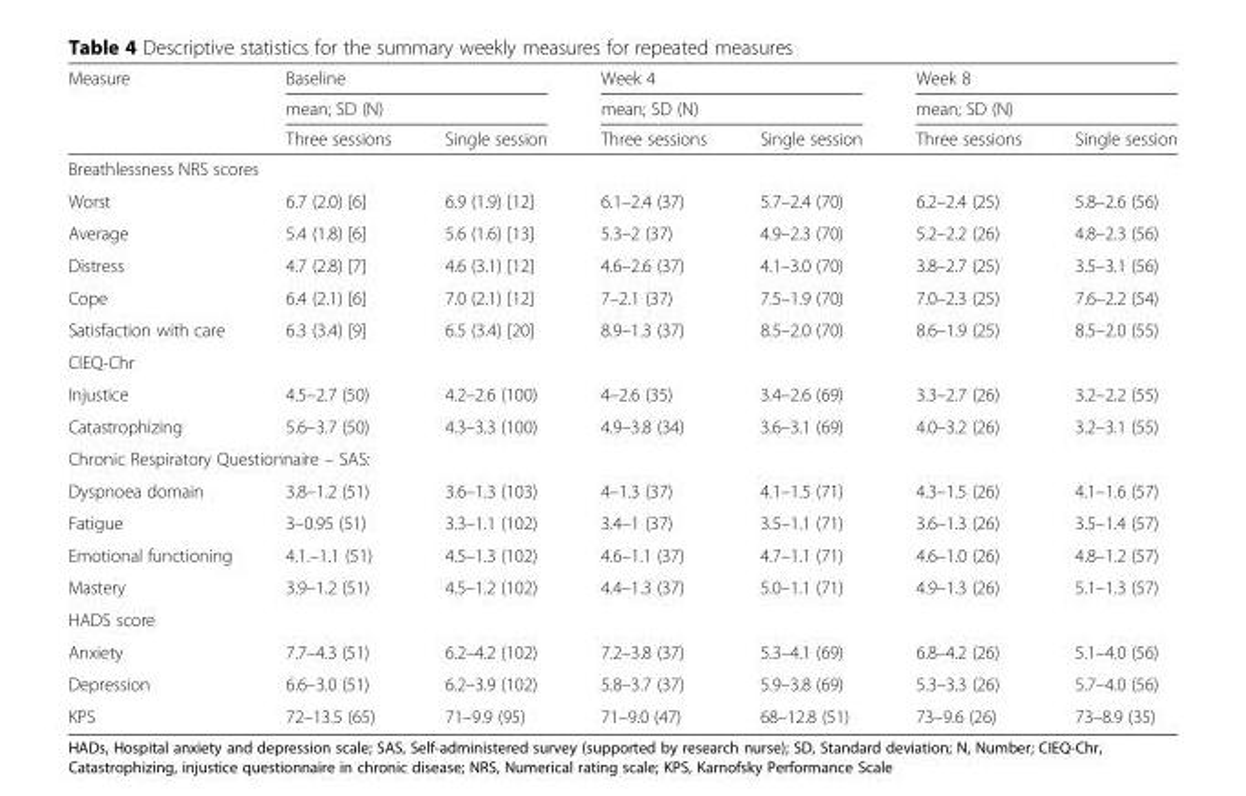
<table><thead><tr><td rowspan="3">Measure</td><td rowspan="2" colspan="2">Baseline mean; SD (N)</td><td rowspan="2" colspan="2">Week 4 mean; SD (N)</td><td rowspan="2" colspan="2">Week 8 mean; SD (N)</td></tr><tr></tr><tr><td>Three sessions</td><td>Single session</td><td>Three sessions</td><td>Single session</td><td>Three sessions</td><td>Single session</td></tr></thead><tbody><tr><td colspan="7">Breathlessness NRS scores</td></tr><tr><td>Worst</td><td>6.7 (2.0) [6]</td><td>6.9 (1.9) [12]</td><td>6.1–2.4 (37)</td><td>5.7–2.4 (70)</td><td>6.2–2.4 (25)</td><td>5.8–2.6 (56)</td></tr><tr><td>Average</td><td>5.4 (1.8) [6]</td><td>5.6 (1.6) [13]</td><td>5.3–2 (37)</td><td>4.9–2.3 (70)</td><td>5.2–2.2 (26)</td><td>4.8–2.3 (56)</td></tr><tr><td>Distress</td><td>4.7 (2.8) [7]</td><td>4.6 (3.1) [12]</td><td>4.6–2.6 (37)</td><td>4.1–3.0 (70)</td><td>3.8–2.7 (25)</td><td>3.5–3.1 (56)</td></tr><tr><td>Cope</td><td>6.4 (2.1) [6]</td><td>7.0 (2.1) [12]</td><td>7–2.1 (37)</td><td>7.5–1.9 (70)</td><td>7.0–2.3 (25)</td><td>7.6–2.2 (54)</td></tr><tr><td>Satisfaction with care</td><td>6.3 (3.4) [9]</td><td>6.5 (3.4) [20]</td><td>8.9–1.3 (37)</td><td>8.5–2.0 (70)</td><td>8.6–1.9 (25)</td><td>8.5–2.0 (55)</td></tr><tr><td colspan="7">CIEQ-Chr</td></tr><tr><td>Injustice</td><td>4.5–2.7 (50)</td><td>4.2–2.6 (100)</td><td>4–2.6 (35)</td><td>3.4–2.6 (69)</td><td>3.3–2.7 (26)</td><td>3.2–2.2 (55)</td></tr><tr><td>Catastrophizing</td><td>5.6–3.7 (50)</td><td>4.3–3.3 (100)</td><td>4.9–3.8 (34)</td><td>3.6–3.1 (69)</td><td>4.0–3.2 (26)</td><td>3.2–3.1 (55)</td></tr><tr><td colspan="7">Chronic Respiratory Questionnaire – SAS:</td></tr><tr><td>Dyspnoea domain</td><td>3.8–1.2 (51)</td><td>3.6–1.3 (103)</td><td>4–1.3 (37)</td><td>4.1–1.5 (71)</td><td>4.3–1.5 (26)</td><td>4.1–1.6 (57)</td></tr><tr><td>Fatigue</td><td>3–0.95 (51)</td><td>3.3–1.1 (102)</td><td>3.4–1 (37)</td><td>3.5–1.1 (71)</td><td>3.6–1.3 (26)</td><td>3.5–1.4 (57)</td></tr><tr><td>Emotional functioning</td><td>4.1.–1.1 (51)</td><td>4.5–1.3 (102)</td><td>4.6–1.1 (37)</td><td>4.7–1.1 (71)</td><td>4.6–1.0 (26)</td><td>4.8–1.2 (57)</td></tr><tr><td>Mastery</td><td>3.9–1.2 (51)</td><td>4.5–1.2 (102)</td><td>4.4–1.3 (37)</td><td>5.0–1.1 (71)</td><td>4.9–1.3 (26)</td><td>5.1–1.3 (57)</td></tr><tr><td colspan="7">HADS score</td></tr><tr><td>Anxiety</td><td>7.7–4.3 (51)</td><td>6.2–4.2 (102)</td><td>7.2–3.8 (37)</td><td>5.3–4.1 (69)</td><td>6.8–4.2 (26)</td><td>5.1–4.0 (56)</td></tr><tr><td>Depression</td><td>6.6–3.0 (51)</td><td>6.2–3.9 (102)</td><td>5.8–3.7 (37)</td><td>5.9–3.8 (69)</td><td>5.3–3.3 (26)</td><td>5.7–4.0 (56)</td></tr><tr><td>KPS</td><td>72–13.5 (65)</td><td>71–9.9 (95)</td><td>71–9.0 (47)</td><td>68–12.8 (51)</td><td>73–9.6 (26)</td><td>73–8.9 (35)</td></tr></tbody></table>